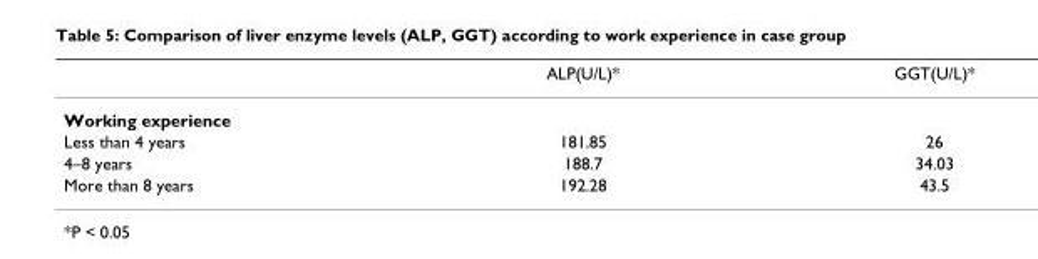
<table><thead><tr><td></td><td>ALP(U/L)*</td><td>GGT(U/L)*</td></tr></thead><tbody><tr><td colspan="3">Working experience</td></tr><tr><td>Less than 4 years</td><td>181.85</td><td>26</td></tr><tr><td>4–8 years</td><td>188.7</td><td>34.03</td></tr><tr><td>More than 8 years</td><td>192.28</td><td>43.5</td></tr></tbody></table>